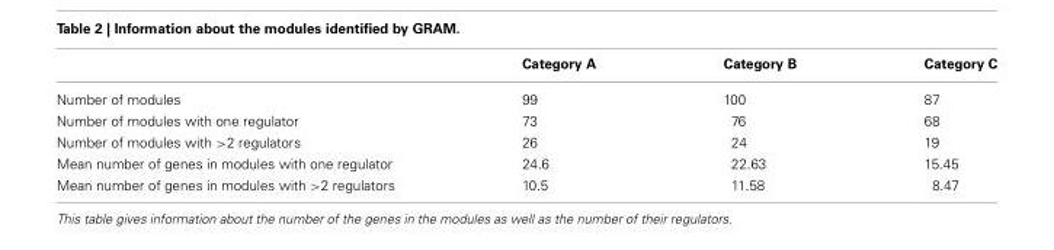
<table><thead><tr><td></td><td>Category A</td><td>Category B</td><td>Category C</td></tr></thead><tbody><tr><td>Number of modules</td><td>99</td><td>100</td><td>87</td></tr><tr><td>Number of modules with one regulator</td><td>73</td><td>76</td><td>68</td></tr><tr><td>Number of modules with &gt;2 regulators</td><td>26</td><td>24</td><td>19</td></tr><tr><td>Mean number of genes in modules with one regulator</td><td>24.6</td><td>22.63</td><td>15.45</td></tr><tr><td>Mean number of genes in modules with &gt;2 regulators</td><td>10.5</td><td>11.58</td><td>8.47</td></tr></tbody></table>